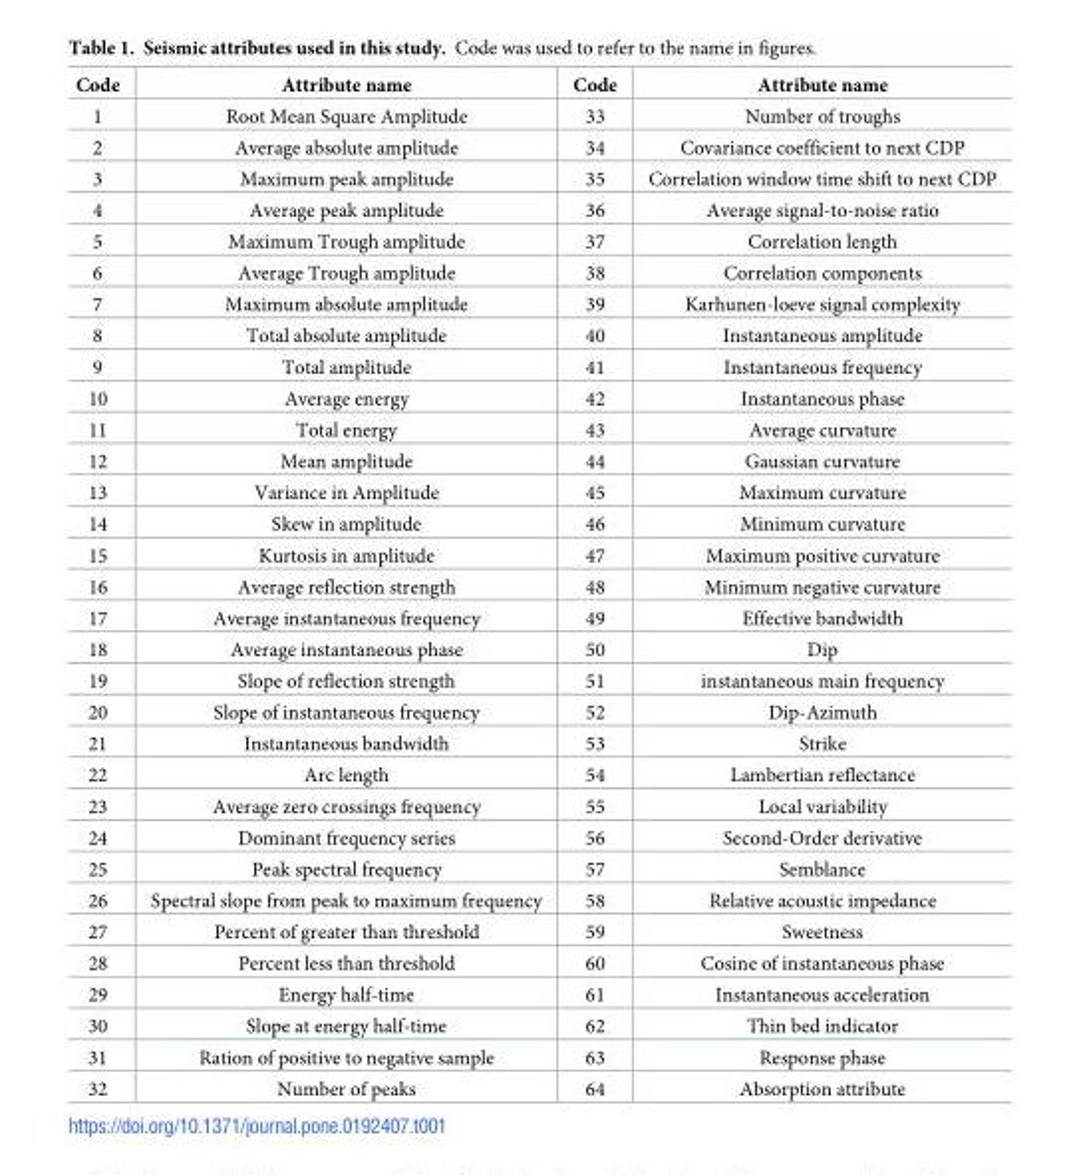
<table><thead><tr><td>Code</td><td>Attribute name</td><td>Code</td><td>Attribute name</td></tr></thead><tbody><tr><td>1</td><td>Root Mean Square Amplitude</td><td>33</td><td>Number of troughs</td></tr><tr><td>2</td><td>Average absolute amplitude</td><td>34</td><td>Covariance coefficient to next CDP</td></tr><tr><td>3</td><td>Maximum peak amplitude</td><td>35</td><td>Correlation window time shift to next CDP</td></tr><tr><td>4</td><td>Average peak amplitude</td><td>36</td><td>Average signal-to-noise ratio</td></tr><tr><td>5</td><td>Maximum Trough amplitude</td><td>37</td><td>Correlation length</td></tr><tr><td>6</td><td>Average Trough amplitude</td><td>38</td><td>Correlation components</td></tr><tr><td>7</td><td>Maximum absolute amplitude</td><td>39</td><td>Karhunen-loeve signal complexity</td></tr><tr><td>8</td><td>Total absolute amplitude</td><td>40</td><td>Instantaneous amplitude</td></tr><tr><td>9</td><td>Total amplitude</td><td>41</td><td>Instantaneous frequency</td></tr><tr><td>10</td><td>Average energy</td><td>42</td><td>Instantaneous phase</td></tr><tr><td>11</td><td>Total energy</td><td>43</td><td>Average curvature</td></tr><tr><td>12</td><td>Mean amplitude</td><td>44</td><td>Gaussian curvature</td></tr><tr><td>13</td><td>Variance in Amplitude</td><td>45</td><td>Maximum curvature</td></tr><tr><td>14</td><td>Skew in amplitude</td><td>46</td><td>Minimum curvature</td></tr><tr><td>15</td><td>Kurtosis in amplitude</td><td>47</td><td>Maximum positive curvature</td></tr><tr><td>16</td><td>Average reflection strength</td><td>48</td><td>Minimum negative curvature</td></tr><tr><td>17</td><td>Average instantaneous frequency</td><td>49</td><td>Effective bandwidth</td></tr><tr><td>18</td><td>Average instantaneous phase</td><td>50</td><td>Dip</td></tr><tr><td>19</td><td>Slope of reflection strength</td><td>51</td><td>instantaneous main frequency</td></tr><tr><td>20</td><td>Slope of instantaneous frequency</td><td>52</td><td>Dip-Azimuth</td></tr><tr><td>21</td><td>Instantaneous bandwidth</td><td>53</td><td>Strike</td></tr><tr><td>22</td><td>Arc length</td><td>54</td><td>Lambertian reflectance</td></tr><tr><td>23</td><td>Average zero crossings frequency</td><td>55</td><td>Local variability</td></tr><tr><td>24</td><td>Dominant frequency series</td><td>56</td><td>Second-Order derivative</td></tr><tr><td>25</td><td>Peak spectral frequency</td><td>57</td><td>Semblance</td></tr><tr><td>26</td><td>Spectral slope from peak to maximum frequency</td><td>58</td><td>Relative acoustic impedance</td></tr><tr><td>27</td><td>Percent of greater than threshold</td><td>59</td><td>Sweetness</td></tr><tr><td>28</td><td>Percent less than threshold</td><td>60</td><td>Cosine of instantaneous phase</td></tr><tr><td>29</td><td>Energy half-time</td><td>61</td><td>Instantaneous acceleration</td></tr><tr><td>30</td><td>Slope at energy half-time</td><td>62</td><td>Thin bed indicator</td></tr><tr><td>31</td><td>Ration of positive to negative sample</td><td>63</td><td>Response phase</td></tr><tr><td>32</td><td>Number of peaks</td><td>64</td><td>Absorption attribute</td></tr></tbody></table>